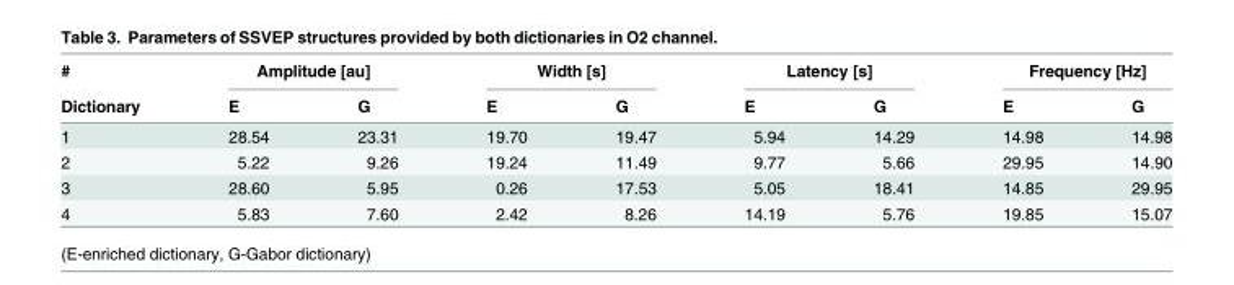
<table><thead><tr><td rowspan="2"># Dictionary</td><td colspan="2">Amplitude [au]</td><td colspan="2">Width [s]</td><td colspan="2">Latency [s]</td><td colspan="2">Frequency [Hz]</td></tr><tr><td>E</td><td>G</td><td>E</td><td>G</td><td>E</td><td>G</td><td>E</td><td>G</td></tr></thead><tbody><tr><td>1</td><td>28.54</td><td>23.31</td><td>19.70</td><td>19.47</td><td>5.94</td><td>14.29</td><td>14.98</td><td>14.98</td></tr><tr><td>2</td><td>5.22</td><td>9.26</td><td>19.24</td><td>11.49</td><td>9.77</td><td>5.66</td><td>29.95</td><td>14.90</td></tr><tr><td>3</td><td>28.60</td><td>5.95</td><td>0.26</td><td>17.53</td><td>5.05</td><td>18.41</td><td>14.85</td><td>29.95</td></tr><tr><td>4</td><td>5.83</td><td>7.60</td><td>2.42</td><td>8.26</td><td>14.19</td><td>5.76</td><td>19.85</td><td>15.07</td></tr></tbody></table>